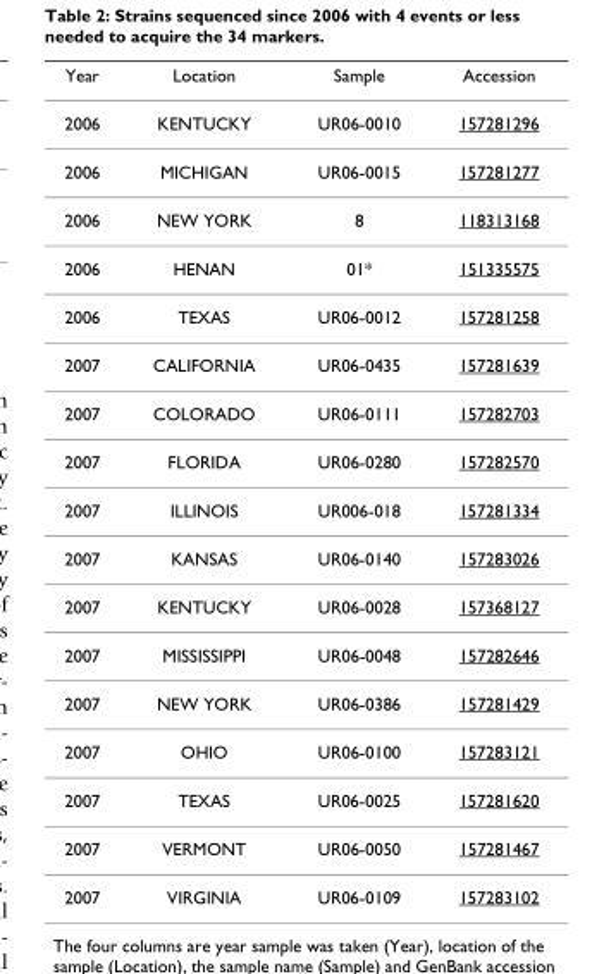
<table><thead><tr><td>Year</td><td>Location</td><td>Sample</td><td>Accession</td></tr></thead><tbody><tr><td>2006</td><td>KENTUCKY</td><td>UR06-0010</td><td>157281296</td></tr><tr><td>2006</td><td>MICHIGAN</td><td>UR06-0015</td><td>157281277</td></tr><tr><td>2006</td><td>NEW YORK</td><td>8</td><td>118313168</td></tr><tr><td>2006</td><td>HENAN</td><td>01*</td><td>151335575</td></tr><tr><td>2006</td><td>TEXAS</td><td>UR06-0012</td><td>157281258</td></tr><tr><td>2007</td><td>CALIFORNIA</td><td>UR06-0435</td><td>157281639</td></tr><tr><td>2007</td><td>COLORADO</td><td>UR06-0111</td><td>157282703</td></tr><tr><td>2007</td><td>FLORIDA</td><td>UR06-0280</td><td>157282570</td></tr><tr><td>2007</td><td>ILLINOIS</td><td>UR006-018</td><td>157281334</td></tr><tr><td>2007</td><td>KANSAS</td><td>UR06-0140</td><td>157283026</td></tr><tr><td>2007</td><td>KENTUCKY</td><td>UR06-0028</td><td>157368127</td></tr><tr><td>2007</td><td>MISSISSIPPI</td><td>UR06-0048</td><td>157282646</td></tr><tr><td>2007</td><td>NEW YORK</td><td>UR06-0386</td><td>157281429</td></tr><tr><td>2007</td><td>OHIO</td><td>UR06-0100</td><td>157283121</td></tr><tr><td>2007</td><td>TEXAS</td><td>UR06-0025</td><td>157281620</td></tr><tr><td>2007</td><td>VERMONT</td><td>UR06-0050</td><td>157281467</td></tr><tr><td>2007</td><td>VIRGINIA</td><td>UR06-0109</td><td>157283102</td></tr></tbody></table>